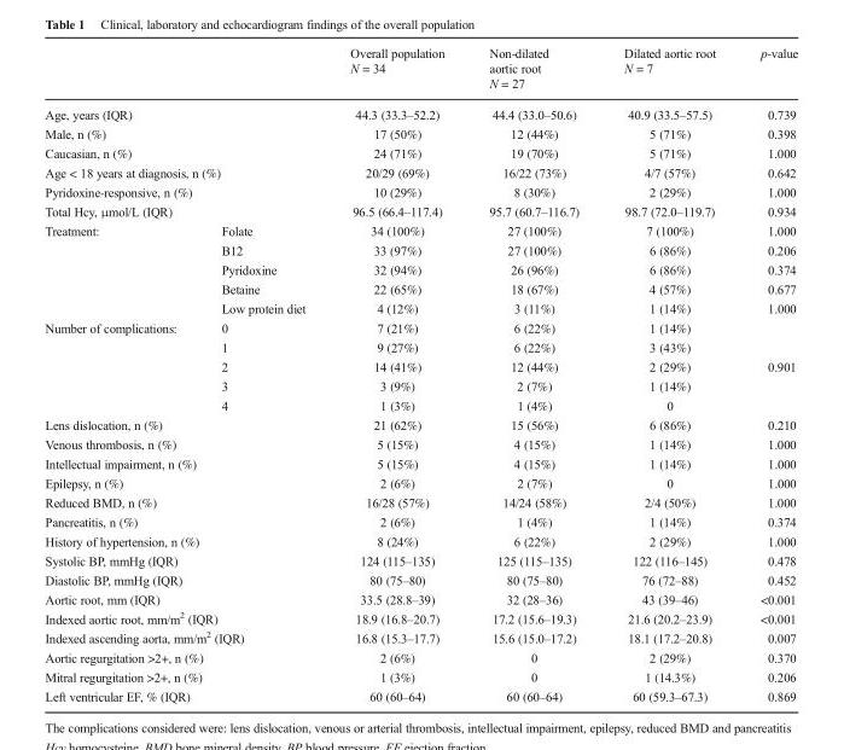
<table><thead><tr><td></td><td></td><td>Overall population N = 34</td><td>Non-dilated aortic root N = 27</td><td>Dilated aortic root N = 7</td><td>p-value</td></tr></thead><tbody><tr><td colspan="2">Age, years (IQR)</td><td>44.3 (33.3–52.2)</td><td>44.4 (33.0–50.6)</td><td>40.9 (33.5–57.5)</td><td>0.739</td></tr><tr><td colspan="2">Male, n (%)</td><td>17 (50%)</td><td>12 (44%)</td><td>5 (71%)</td><td>0.398</td></tr><tr><td colspan="2">Caucasian, n (%)</td><td>24 (71%)</td><td>19 (70%)</td><td>5 (71%)</td><td>1.000</td></tr><tr><td colspan="2">Age &lt; 18 years at diagnosis, n (%)</td><td>20/29 (69%)</td><td>16/22 (73%)</td><td>4/7 (57%)</td><td>0.642</td></tr><tr><td colspan="2">Pyridoxine-responsive, n (%)</td><td>10 (29%)</td><td>8 (30%)</td><td>2 (29%)</td><td>1.000</td></tr><tr><td colspan="2">Total Hcy, μmol/L (IQR)</td><td>96.5 (66.4–117.4)</td><td>95.7 (60.7–116.7)</td><td>98.7 (72.0–119.7)</td><td>0.934</td></tr><tr><td rowspan="5">Treatment:</td><td>Folate</td><td>34 (100%)</td><td>27 (100%)</td><td>7 (100%)</td><td>1.000</td></tr><tr><td>B12</td><td>33 (97%)</td><td>27 (100%)</td><td>6 (86%)</td><td>0.206</td></tr><tr><td>Pyridoxine</td><td>32 (94%)</td><td>26 (96%)</td><td>6 (86%)</td><td>0.374</td></tr><tr><td>Betaine</td><td>22 (65%)</td><td>18 (67%)</td><td>4 (57%)</td><td>0.677</td></tr><tr><td>Low protein diet</td><td>4 (12%)</td><td>3 (11%)</td><td>1 (14%)</td><td>1.000</td></tr><tr><td rowspan="5">Number of complications:</td><td>0</td><td>7 (21%)</td><td>6 (22%)</td><td>1 (14%)</td><td></td></tr><tr><td>1</td><td>9 (27%)</td><td>6 (22%)</td><td>3 (43%)</td><td></td></tr><tr><td>2</td><td>14 (41%)</td><td>12 (44%)</td><td>2 (29%)</td><td>0.901</td></tr><tr><td>3</td><td>3 (9%)</td><td>2 (7%)</td><td>1 (14%)</td><td></td></tr><tr><td>4</td><td>1 (3%)</td><td>1 (4%)</td><td>0</td><td></td></tr><tr><td colspan="2">Lens dislocation, n (%)</td><td>21 (62%)</td><td>15 (56%)</td><td>6 (86%)</td><td>0.210</td></tr><tr><td colspan="2">Venous thrombosis, n (%)</td><td>5 (15%)</td><td>4 (15%)</td><td>1 (14%)</td><td>1.000</td></tr><tr><td colspan="2">Intellectual impairment, n (%)</td><td>5 (15%)</td><td>4 (15%)</td><td>1 (14%)</td><td>1.000</td></tr><tr><td colspan="2">Epilepsy, n (%)</td><td>2 (6%)</td><td>2 (7%)</td><td>0</td><td>1.000</td></tr><tr><td colspan="2">Reduced BMD, n (%)</td><td>16/28 (57%)</td><td>14/24 (58%)</td><td>2/4 (50%)</td><td>1.000</td></tr><tr><td colspan="2">Pancreatitis, n (%)</td><td>2 (6%)</td><td>1 (4%)</td><td>1 (14%)</td><td>0.374</td></tr><tr><td colspan="2">History of hypertension, n (%)</td><td>8 (24%)</td><td>6 (22%)</td><td>2 (29%)</td><td>1.000</td></tr><tr><td colspan="2">Systolic BP, mmHg (IQR)</td><td>124 (115–135)</td><td>125 (115–135)</td><td>122 (116–145)</td><td>0.478</td></tr><tr><td colspan="2">Diastolic BP, mmHg (IQR)</td><td>80 (75–80)</td><td>80 (75–80)</td><td>76 (72–88)</td><td>0.452</td></tr><tr><td colspan="2">Aortic root, mm (IQR)</td><td>33.5 (28.8–39)</td><td>32 (28–36)</td><td>43 (39–46)</td><td>&lt;0.001</td></tr><tr><td colspan="2">Indexed aortic root, mm/m<sup>2</sup> (IQR)</td><td>18.9 (16.8–20.7)</td><td>17.2 (15.6–19.3)</td><td>21.6 (20.2–23.9)</td><td>&lt;0.001</td></tr><tr><td colspan="2">Indexed ascending aorta, mm/m<sup>2</sup> (IQR)</td><td>16.8 (15.3–17.7)</td><td>15.6 (15.0–17.2)</td><td>18.1 (17.2–20.8)</td><td>0.007</td></tr><tr><td colspan="2">Aortic regurgitation &gt;2+, n (%)</td><td>2 (6%)</td><td>0</td><td>2 (29%)</td><td>0.370</td></tr><tr><td colspan="2">Mitral regurgitation &gt;2+, n (%)</td><td>1 (3%)</td><td>0</td><td>1 (14.3%)</td><td>0.206</td></tr><tr><td colspan="2">Left ventricular EF, % (IQR)</td><td>60 (60–64)</td><td>60 (60–64)</td><td>60 (59.3–67.3)</td><td>0.869</td></tr></tbody></table>